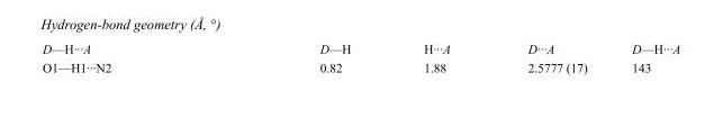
<table><tbody><tr><td>D—H···A</td><td>D—H</td><td>H···A</td><td>D···A</td><td>D—H···A</td></tr><tr><td>O1—H1···N2</td><td>0.82</td><td>1.88</td><td>2.5777 (17)</td><td>143</td></tr></tbody></table>